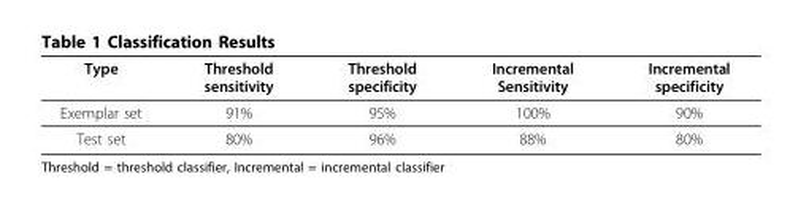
<table><tbody><tr><td>Type</td><td>Threshold sensitivity</td><td>Threshold specificity</td><td>Incremental Sensitivity</td><td>Incremental specificity</td></tr><tr><td>Exemplar set</td><td>91%</td><td>95%</td><td>100%</td><td>90%</td></tr><tr><td>Test set</td><td>80%</td><td>96%</td><td>88%</td><td>80%</td></tr></tbody></table>